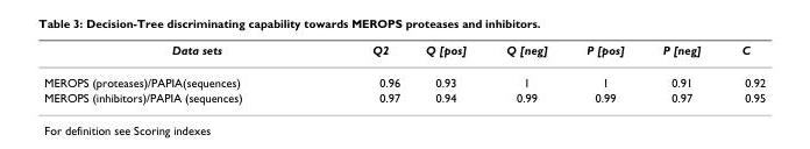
<table><thead><tr><td>Data sets</td><td>Q2</td><td>Q [pos]</td><td>Q [neg]</td><td>P [pos]</td><td>P [neg]</td><td>C</td></tr></thead><tbody><tr><td>MEROPS (proteases)/PAPIA(sequences)</td><td>0.96</td><td>0.93</td><td>1</td><td>1</td><td>0.91</td><td>0.92</td></tr><tr><td>MEROPS (inhibitors)/PAPIA (sequences)</td><td>0.97</td><td>0.94</td><td>0.99</td><td>0.99</td><td>0.97</td><td>0.95</td></tr></tbody></table>